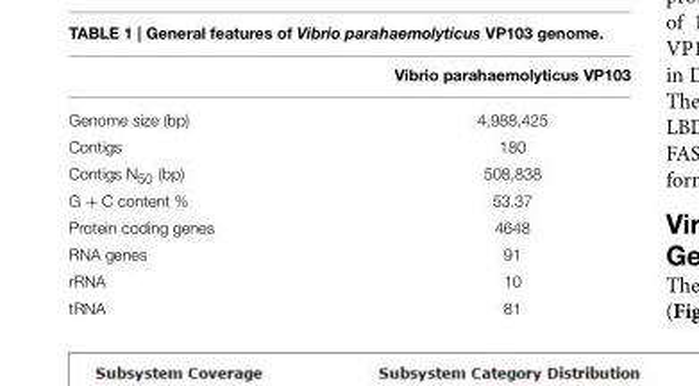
<table><thead><tr><td></td><td>Vibrio parahaemolyticus VP103</td></tr></thead><tbody><tr><td>Genome size (bp)</td><td>4,988,425</td></tr><tr><td>Contigs</td><td>180</td></tr><tr><td>Contigs N<sub>50</sub> (bp)</td><td>508,838</td></tr><tr><td>G + C content %</td><td>53.37</td></tr><tr><td>Protein coding genes</td><td>4648</td></tr><tr><td>RNA genes</td><td>91</td></tr><tr><td>rRNA</td><td>10</td></tr><tr><td>tRNA</td><td>81</td></tr></tbody></table>